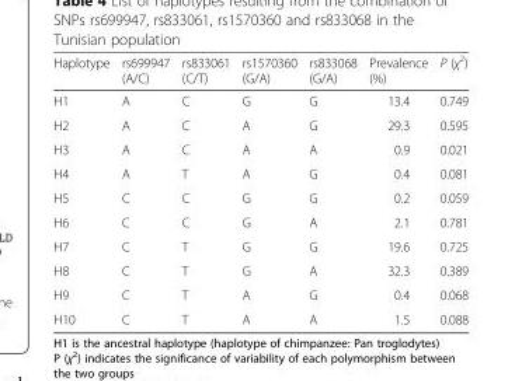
<table><thead><tr><td>Haplotype</td><td>rs699947 (A/C)</td><td>rs833061 (C/T)</td><td>rs1570360 (G/A)</td><td>rs833068 (G/A)</td><td>Prevalence (%)</td><td>P (χ<sup>2</sup>)</td></tr></thead><tbody><tr><td>H1</td><td>A</td><td>C</td><td>G</td><td>G</td><td>13.4</td><td>0.749</td></tr><tr><td>H2</td><td>A</td><td>C</td><td>A</td><td>G</td><td>29.3</td><td>0.595</td></tr><tr><td>H3</td><td>A</td><td>C</td><td>A</td><td>A</td><td>0.9</td><td>0.021</td></tr><tr><td>H4</td><td>A</td><td>T</td><td>A</td><td>G</td><td>0.4</td><td>0.081</td></tr><tr><td>H5</td><td>C</td><td>C</td><td>G</td><td>G</td><td>0.2</td><td>0.059</td></tr><tr><td>H6</td><td>C</td><td>C</td><td>G</td><td>A</td><td>2.1</td><td>0.781</td></tr><tr><td>H7</td><td>C</td><td>T</td><td>G</td><td>G</td><td>19.6</td><td>0.725</td></tr><tr><td>H8</td><td>C</td><td>T</td><td>G</td><td>A</td><td>32.3</td><td>0.389</td></tr><tr><td>H9</td><td>C</td><td>T</td><td>A</td><td>G</td><td>0.4</td><td>0.068</td></tr><tr><td>H10</td><td>C</td><td>T</td><td>A</td><td>A</td><td>1.5</td><td>0.088</td></tr></tbody></table>